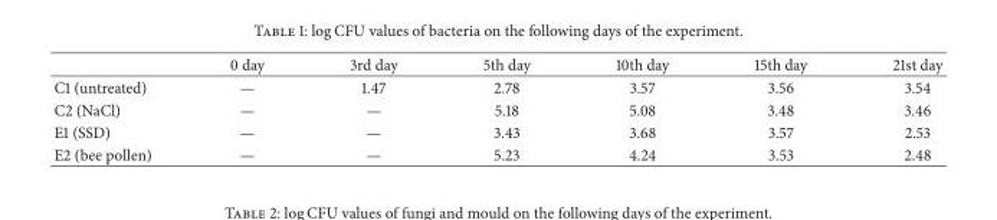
<table><thead><tr><td></td><td>0 day</td><td>3rd day</td><td>5th day</td><td>10th day</td><td>15th day</td><td>21st day</td></tr></thead><tbody><tr><td>C1 (untreated)</td><td>—</td><td>1.47</td><td>2.78</td><td>3.57</td><td>3.56</td><td>3.54</td></tr><tr><td>C2 (NaCl)</td><td>—</td><td>—</td><td>5.18</td><td>5.08</td><td>3.48</td><td>3.46</td></tr><tr><td>E1 (SSD)</td><td>—</td><td>—</td><td>3.43</td><td>3.68</td><td>3.57</td><td>2.53</td></tr><tr><td>E2 (bee pollen)</td><td>—</td><td>—</td><td>5.23</td><td>4.24</td><td>3.53</td><td>2.48</td></tr></tbody></table>